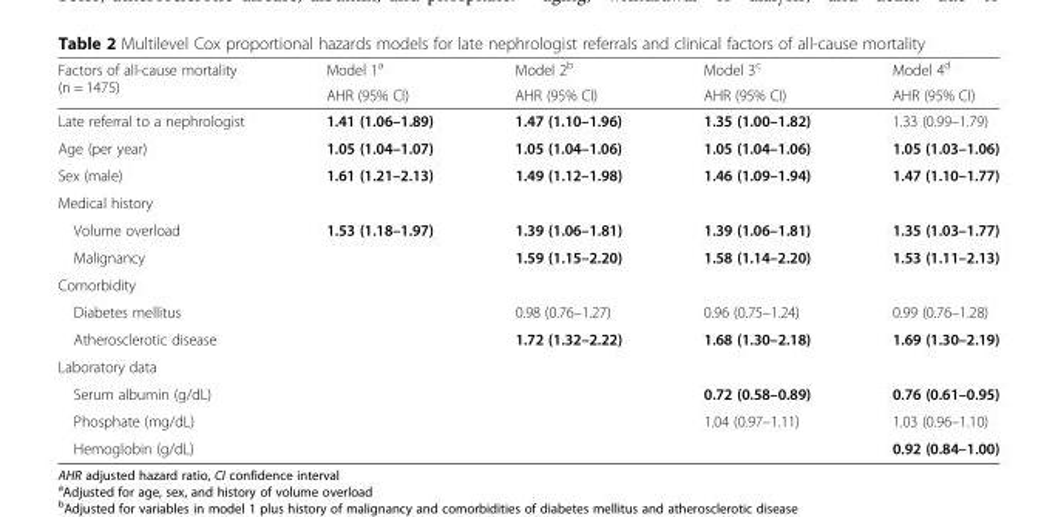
<table><thead><tr><td rowspan="2">Factors of all-cause mortality (n = 1475)</td><td rowspan="2">Model 1<sup>a</sup> AHR (95% CI)</td><td rowspan="2">Model 2<sup>b</sup> AHR (95% CI)</td><td rowspan="2">Model 3<sup>c</sup> AHR (95% CI)</td><td rowspan="2">Model 4<sup>d</sup> AHR (95% CI)</td></tr><tr></tr></thead><tbody><tr><td>Late referral to a nephrologist</td><td>1.41 (1.06–1.89)</td><td>1.47 (1.10–1.96)</td><td>1.35 (1.00–1.82)</td><td>1.33 (0.99–1.79)</td></tr><tr><td>Age (per year)</td><td>1.05 (1.04–1.07)</td><td>1.05 (1.04–1.06)</td><td>1.05 (1.04–1.06)</td><td>1.05 (1.03–1.06)</td></tr><tr><td>Sex (male)</td><td>1.61 (1.21–2.13)</td><td>1.49 (1.12–1.98)</td><td>1.46 (1.09–1.94)</td><td>1.47 (1.10–1.77)</td></tr><tr><td colspan="5">Medical history</td></tr><tr><td>Volume overload</td><td>1.53 (1.18–1.97)</td><td>1.39 (1.06–1.81)</td><td>1.39 (1.06–1.81)</td><td>1.35 (1.03–1.77)</td></tr><tr><td>Malignancy</td><td></td><td>1.59 (1.15–2.20)</td><td>1.58 (1.14–2.20)</td><td>1.53 (1.11–2.13)</td></tr><tr><td colspan="5">Comorbidity</td></tr><tr><td>Diabetes mellitus</td><td></td><td>0.98 (0.76–1.27)</td><td>0.96 (0.75–1.24)</td><td>0.99 (0.76–1.28)</td></tr><tr><td>Atherosclerotic disease</td><td></td><td>1.72 (1.32–2.22)</td><td>1.68 (1.30–2.18)</td><td>1.69 (1.30–2.19)</td></tr><tr><td colspan="5">Laboratory data</td></tr><tr><td>Serum albumin (g/dL)</td><td></td><td></td><td>0.72 (0.58–0.89)</td><td>0.76 (0.61–0.95)</td></tr><tr><td>Phosphate (mg/dL)</td><td></td><td></td><td>1.04 (0.97–1.11)</td><td>1.03 (0.96–1.10)</td></tr><tr><td>Hemoglobin (g/dL)</td><td></td><td></td><td></td><td>0.92 (0.84–1.00)</td></tr></tbody></table>